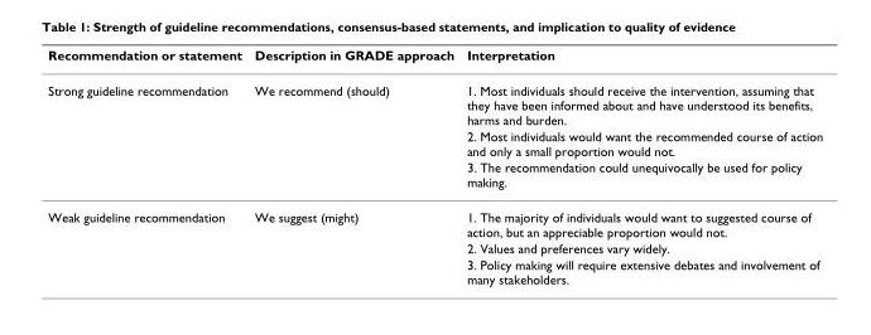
<table><thead><tr><td>Recommendation or statement</td><td>Description in GRADE approach</td><td>Interpretation</td></tr></thead><tbody><tr><td rowspan="3">Strong guideline recommendation</td><td>We recommend (should)</td><td>1. Most individuals should receive the intervention, assuming that they have been informed about and have understood its benefits, harms and burden.</td></tr><tr><td></td><td>2. Most individuals would want the recommended course of action and only a small proportion would not.</td></tr><tr><td></td><td>3. The recommendation could unequivocally be used for policy making.</td></tr><tr><td rowspan="3">Weak guideline recommendation</td><td>We suggest (might)</td><td>1. The majority of individuals would want to suggested course of action, but an appreciable proportion would not.</td></tr><tr><td></td><td>2. Values and preferences vary widely.</td></tr><tr><td></td><td>3. Policy making will require extensive debates and involvement of many stakeholders.</td></tr></tbody></table>